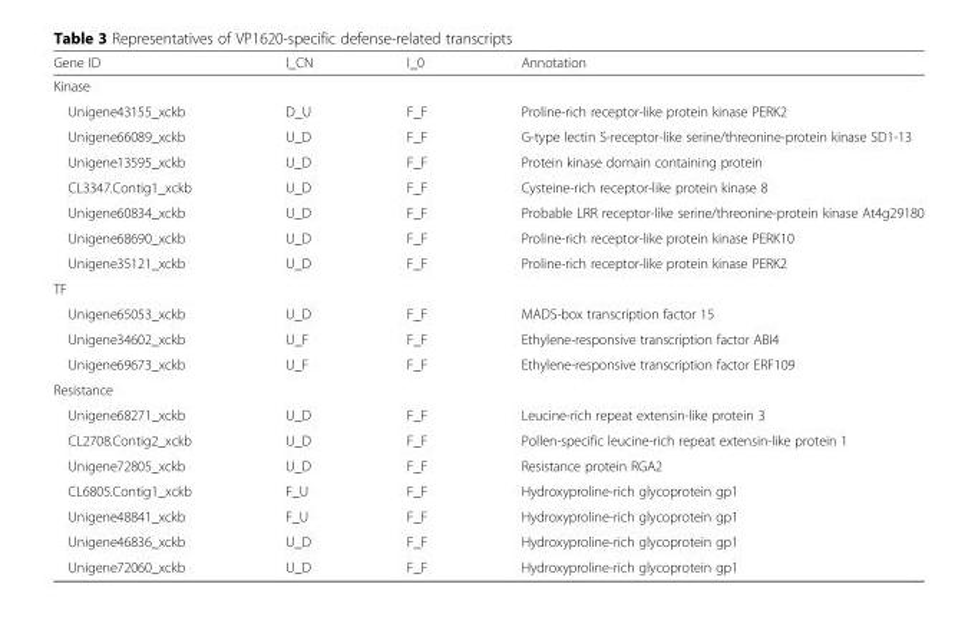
<table><thead><tr><td>Gene ID</td><td>I_CN</td><td>I_0</td><td>Annotation</td></tr></thead><tbody><tr><td colspan="4">Kinase</td></tr><tr><td>Unigene43155_xckb</td><td>D_U</td><td>F_F</td><td>Proline-rich receptor-like protein kinase PERK2</td></tr><tr><td>Unigene66089_xckb</td><td>U_D</td><td>F_F</td><td>G-type lectin S-receptor-like serine/threonine-protein kinase SD1-13</td></tr><tr><td>Unigene13595_xckb</td><td>U_D</td><td>F_F</td><td>Protein kinase domain containing protein</td></tr><tr><td>CL3347.Contig1_xckb</td><td>U_D</td><td>F_F</td><td>Cysteine-rich receptor-like protein kinase 8</td></tr><tr><td>Unigene60834_xckb</td><td>U_D</td><td>F_F</td><td>Probable LRR receptor-like serine/threonine-protein kinase At4g29180</td></tr><tr><td>Unigene68690_xckb</td><td>U_D</td><td>F_F</td><td>Proline-rich receptor-like protein kinase PERK10</td></tr><tr><td>Unigene35121_xckb</td><td>U_D</td><td>F_F</td><td>Proline-rich receptor-like protein kinase PERK2</td></tr><tr><td colspan="4">TF</td></tr><tr><td>Unigene65053_xckb</td><td>U_D</td><td>F_F</td><td>MADS-box transcription factor 15</td></tr><tr><td>Unigene34602_xckb</td><td>U_F</td><td>F_F</td><td>Ethylene-responsive transcription factor ABI4</td></tr><tr><td>Unigene69673_xckb</td><td>U_F</td><td>F_F</td><td>Ethylene-responsive transcription factor ERF109</td></tr><tr><td colspan="4">Resistance</td></tr><tr><td>Unigene68271_xckb</td><td>U_D</td><td>F_F</td><td>Leucine-rich repeat extensin-like protein 3</td></tr><tr><td>CL2708.Contig2_xckb</td><td>U_D</td><td>F_F</td><td>Pollen-specific leucine-rich repeat extensin-like protein 1</td></tr><tr><td>Unigene72805_xckb</td><td>U_D</td><td>F_F</td><td>Resistance protein RGA2</td></tr><tr><td>CL6805.Contig1_xckb</td><td>F_U</td><td>F_F</td><td>Hydroxyproline-rich glycoprotein gp1</td></tr><tr><td>Unigene48841_xckb</td><td>F_U</td><td>F_F</td><td>Hydroxyproline-rich glycoprotein gp1</td></tr><tr><td>Unigene46836_xckb</td><td>U_D</td><td>F_F</td><td>Hydroxyproline-rich glycoprotein gp1</td></tr><tr><td>Unigene72060_xckb</td><td>U_D</td><td>F_F</td><td>Hydroxyproline-rich glycoprotein gp1</td></tr></tbody></table>